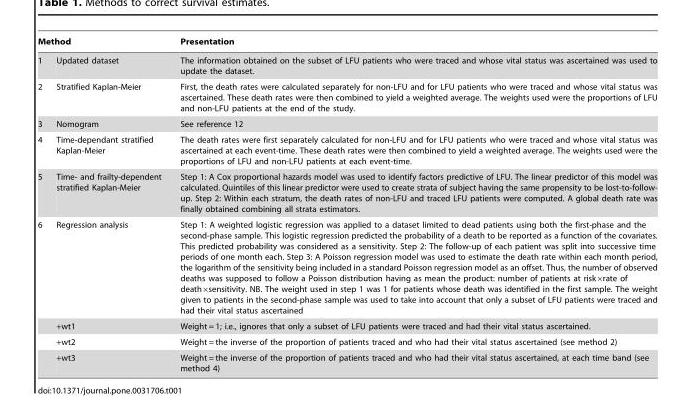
<table><thead><tr><td colspan="2">Method</td><td rowspan="2">Presentation The information obtained on the subset of LFU patients who were traced and whose vital status was ascertained was used to update the dataset.</td></tr><tr><td>1</td><td>Updated dataset</td></tr></thead><tbody><tr><td>2</td><td>Stratified Kaplan-Meier</td><td>First, the death rates were calculated separately for non-LFU and for LFU patients who were traced and whose vital status was ascertained. These death rates were then combined to yield a weighted average. The weights used were the proportions of LFU and non-LFU patients at the end of the study.</td></tr><tr><td>3</td><td>Nomogram</td><td>See reference 12</td></tr><tr><td>4</td><td>Time-dependant stratified Kaplan-Meier</td><td>The death rates were first separately calculated for non-LFU and for LFU patients who were traced and whose vital status was ascertained at each event-time. These death rates were then combined to yield a weighted average. The weights used were the proportions of LFU and non-LFU patients at each event-time.</td></tr><tr><td>5</td><td>Time- and frailty-dependent stratified Kaplan-Meier</td><td>Step 1: A Cox proportional hazards model was used to identify factors predictive of LFU. The linear predictor of this model was calculated. Quintiles of this linear predictor were used to create strata of subject having the same propensity to be lost-to-follow- up. Step 2: Within each stratum, the death rates of non-LFU and traced LFU patients were computed. A global death rate was finally obtained combining all strata estimators.</td></tr><tr><td rowspan="4">6</td><td>Regression analysis</td><td>Step 1: A weighted logistic regression was applied to a dataset limited to dead patients using both the first-phase and the second-phase sample. This logistic regression predicted the probability of a death to be reported as a function of the covariates. This predicted probability was considered as a sensitivity. Step 2: The follow-up of each patient was split into successive time periods of one month each. Step 3: A Poisson regression model was used to estimate the death rate within each month period, the logarithm of the sensitivity being included in a standard Poisson regression model as an offset. Thus, the number of observed deaths was supposed to follow a Poisson distribution having as mean the product: number of patients at risk×rate of death×sensitivity. NB. The weight used in step 1 was 1 for patients whose death was identified in the first sample. The weight given to patients in the second-phase sample was used to take into account that only a subset of LFU patients were traced and had their vital status ascertained</td></tr><tr><td>+wt1</td><td>Weight = 1; i.e., ignores that only a subset of LFU patients were traced and had their vital status ascertained.</td></tr><tr><td>+wt2</td><td>Weight = the inverse of the proportion of patients traced and who had their vital status ascertained (see method 2)</td></tr><tr><td>+wt3</td><td>Weight = the inverse of the proportion of patients traced and who had their vital status ascertained, at each time band (see method 4)</td></tr></tbody></table>